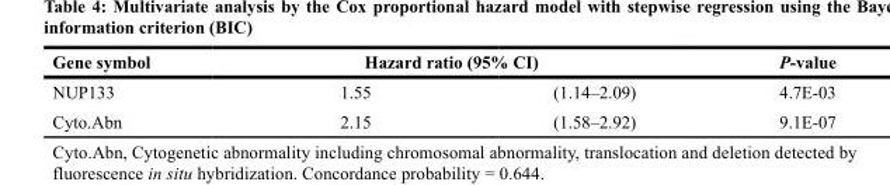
<table><thead><tr><td rowspan="2">Gene symbol NUP133</td><td colspan="2">Hazard ratio (95% CI)</td><td rowspan="2">P-value 4.7E-03</td></tr><tr><td>1.55</td><td>(1.14–2.09)</td></tr></thead><tbody><tr><td>Cyto.Abn</td><td>2.15</td><td>(1.58–2.92)</td><td>9.1E-07</td></tr></tbody></table>